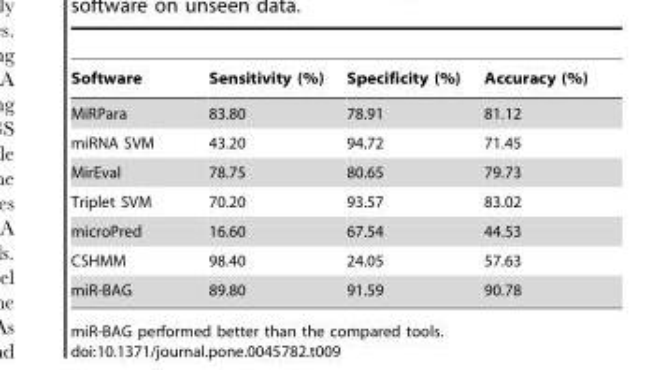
<table><thead><tr><td>Software</td><td>Sensitivity (%)</td><td>Specificity (%)</td><td>Accuracy (%)</td></tr></thead><tbody><tr><td>MiRPara</td><td>83.80</td><td>78.91</td><td>81.12</td></tr><tr><td>miRNA SVM</td><td>43.20</td><td>94.72</td><td>71.45</td></tr><tr><td>MirEval</td><td>78.75</td><td>80.65</td><td>79.73</td></tr><tr><td>Triplet SVM</td><td>70.20</td><td>93.57</td><td>83.02</td></tr><tr><td>microPred</td><td>16.60</td><td>67.54</td><td>44.53</td></tr><tr><td>CSHMM</td><td>98.40</td><td>24.05</td><td>57.63</td></tr><tr><td>miR-BAG</td><td>89.80</td><td>91.59</td><td>90.78</td></tr></tbody></table>